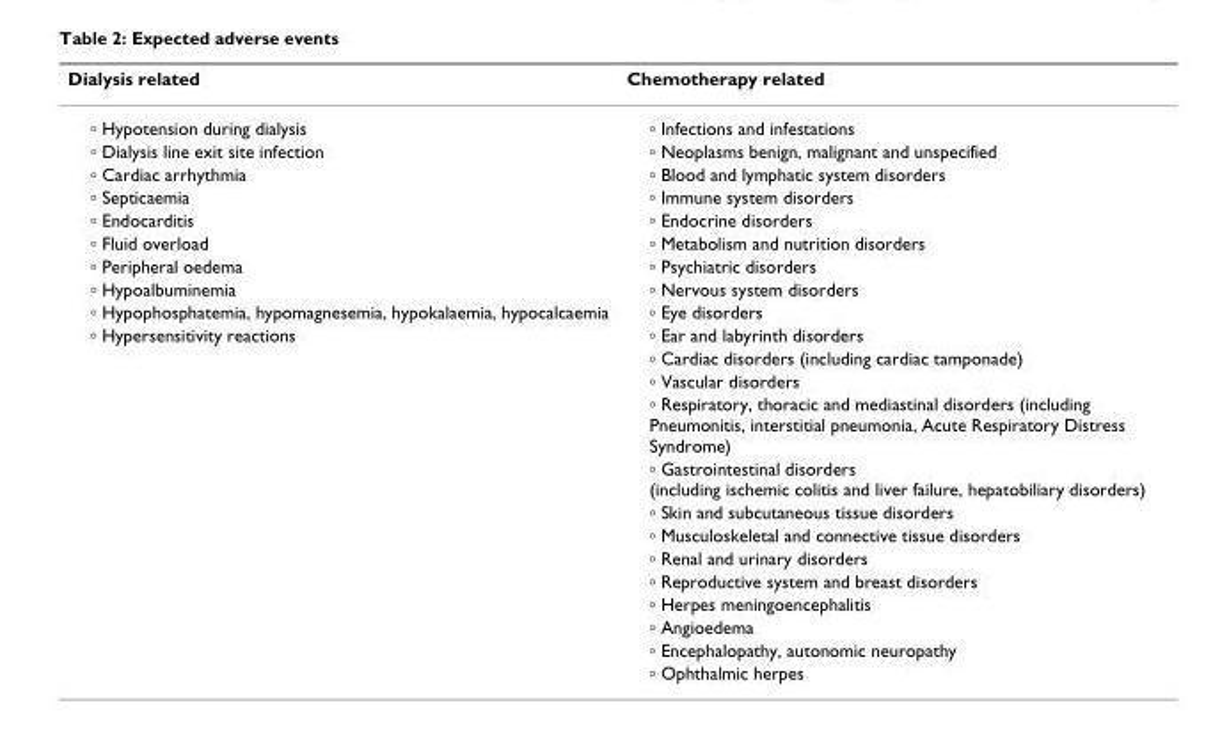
<table><thead><tr><td>Dialysis related</td><td>Chemotherapy related</td></tr></thead><tbody><tr><td>∘ Hypotension during dialysis</td><td>∘ Infections and infestations</td></tr><tr><td>∘ Dialysis line exit site infection</td><td>∘ Neoplasms benign, malignant and unspecified</td></tr><tr><td>∘ Cardiac arrhythmia</td><td>∘ Blood and lymphatic system disorders</td></tr><tr><td>∘ Septicaemia</td><td>∘ Immune system disorders</td></tr><tr><td>∘ Endocarditis</td><td>∘ Endocrine disorders</td></tr><tr><td>∘ Fluid overload</td><td>∘ Metabolism and nutrition disorders</td></tr><tr><td>∘ Peripheral oedema</td><td>∘ Psychiatric disorders</td></tr><tr><td>∘ Hypoalbuminemia</td><td>∘ Nervous system disorders</td></tr><tr><td>∘ Hypophosphatemia, hypomagnesemia, hypokalaemia, hypocalcaemia</td><td>∘ Eye disorders</td></tr><tr><td rowspan="13">∘ Hypersensitivity reactions</td><td>∘ Ear and labyrinth disorders</td></tr><tr><td>∘ Cardiac disorders (including cardiac tamponade)</td></tr><tr><td>∘ Vascular disorders</td></tr><tr><td>∘ Respiratory, thoracic and mediastinal disorders (including Pneumonitis, interstitial pneumonia, Acute Respiratory Distress Syndrome)</td></tr><tr><td>∘ Gastrointestinal disorders (including ischemic colitis and liver failure, hepatobiliary disorders)</td></tr><tr><td>∘ Skin and subcutaneous tissue disorders</td></tr><tr><td>∘ Musculoskeletal and connective tissue disorders</td></tr><tr><td>∘ Renal and urinary disorders</td></tr><tr><td>∘ Reproductive system and breast disorders</td></tr><tr><td>∘ Herpes meningoencephalitis</td></tr><tr><td>∘ Angioedema</td></tr><tr><td>∘ Encephalopathy, autonomic neuropathy</td></tr><tr><td>∘ Ophthalmic herpes</td></tr></tbody></table>